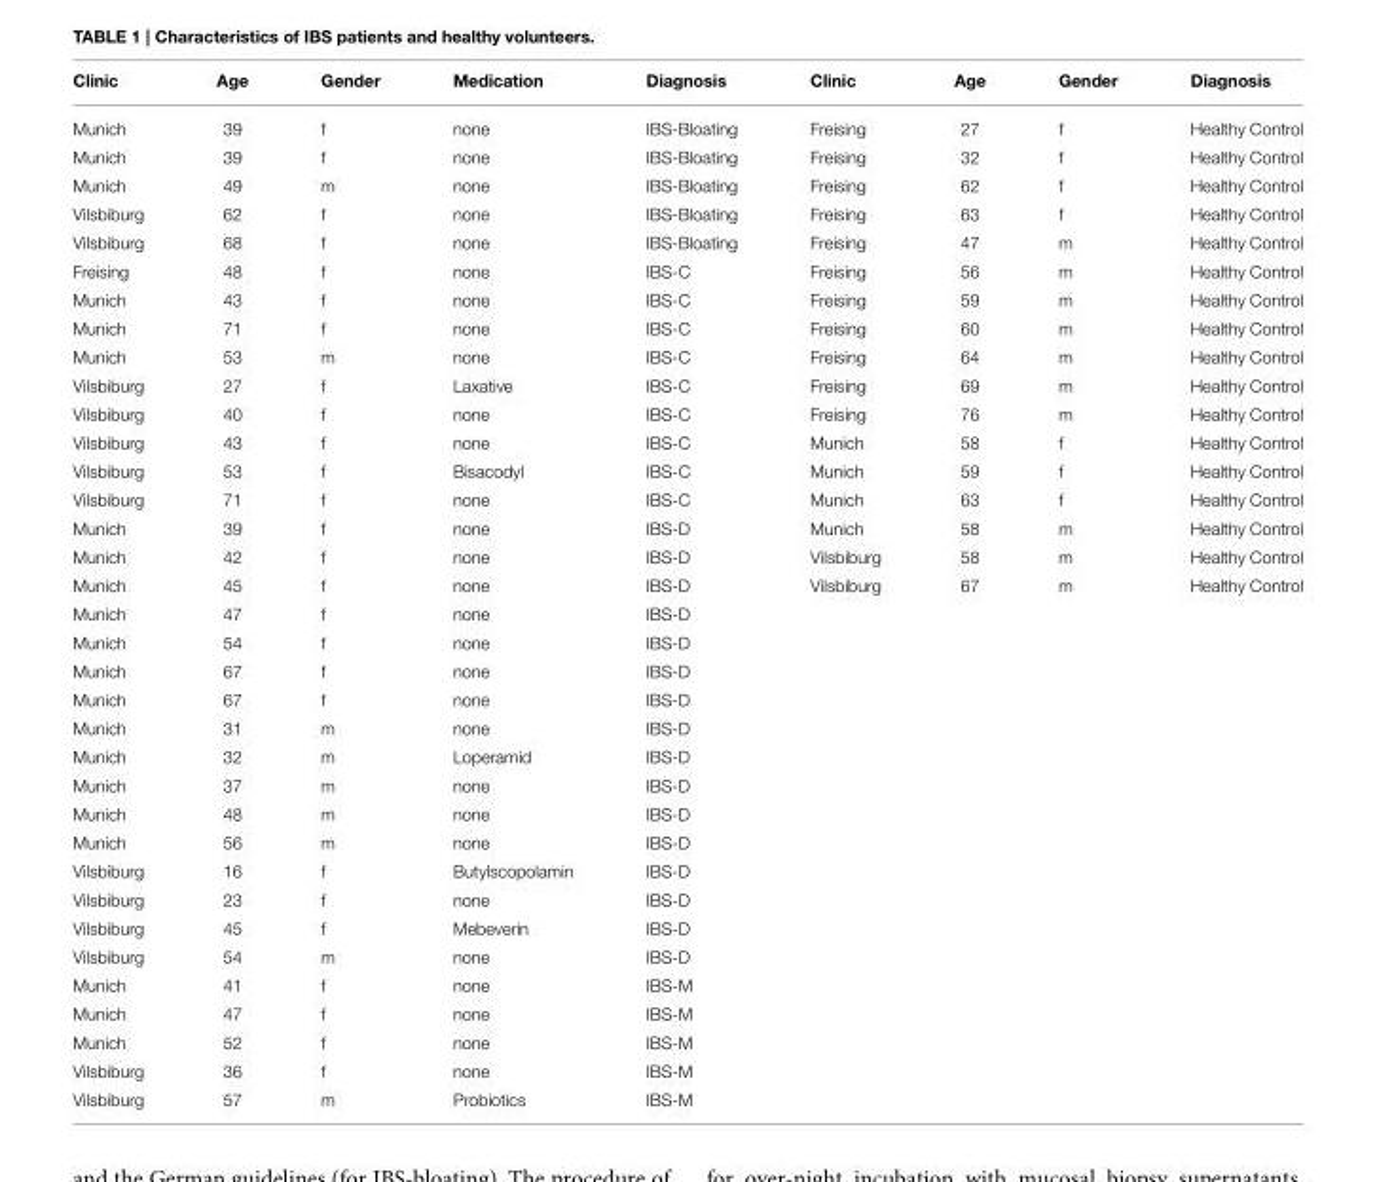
<table><thead><tr><td>Clinic</td><td>Age</td><td>Gender</td><td>Medication</td><td>Diagnosis</td><td>Clinic</td><td>Age</td><td>Gender</td><td>Diagnosis</td></tr></thead><tbody><tr><td>Munich</td><td>39</td><td>f</td><td>none</td><td>IBS-Bloating</td><td>Freising</td><td>27</td><td>f</td><td>Healthy Control</td></tr><tr><td>Munich</td><td>39</td><td>f</td><td>none</td><td>IBS-Bloating</td><td>Freising</td><td>32</td><td>f</td><td>Healthy Control</td></tr><tr><td>Munich</td><td>49</td><td>m</td><td>none</td><td>IBS-Bloating</td><td>Freising</td><td>62</td><td>f</td><td>Healthy Control</td></tr><tr><td>Vilsbiburg</td><td>62</td><td>f</td><td>none</td><td>IBS-Bloating</td><td>Freising</td><td>63</td><td>f</td><td>Healthy Control</td></tr><tr><td>Vilsbiburg</td><td>68</td><td>f</td><td>none</td><td>IBS-Bloating</td><td>Freising</td><td>47</td><td>m</td><td>Healthy Control</td></tr><tr><td>Freising</td><td>48</td><td>f</td><td>none</td><td>IBS-C</td><td>Freising</td><td>56</td><td>m</td><td>Healthy Control</td></tr><tr><td>Munich</td><td>43</td><td>f</td><td>none</td><td>IBS-C</td><td>Freising</td><td>59</td><td>m</td><td>Healthy Control</td></tr><tr><td>Munich</td><td>71</td><td>f</td><td>none</td><td>IBS-C</td><td>Freising</td><td>60</td><td>m</td><td>Healthy Control</td></tr><tr><td>Munich</td><td>53</td><td>m</td><td>none</td><td>IBS-C</td><td>Freising</td><td>64</td><td>m</td><td>Healthy Control</td></tr><tr><td>Vilsbiburg</td><td>27</td><td>f</td><td>Laxative</td><td>IBS-C</td><td>Freising</td><td>69</td><td>m</td><td>Healthy Control</td></tr><tr><td>Vilsbiburg</td><td>40</td><td>f</td><td>none</td><td>IBS-C</td><td>Freising</td><td>76</td><td>m</td><td>Healthy Control</td></tr><tr><td>Vilsbiburg</td><td>43</td><td>f</td><td>none</td><td>IBS-C</td><td>Munich</td><td>58</td><td>f</td><td>Healthy Control</td></tr><tr><td>Vilsbiburg</td><td>53</td><td>f</td><td>Bisacodyl</td><td>IBS-C</td><td>Munich</td><td>59</td><td>f</td><td>Healthy Control</td></tr><tr><td>Vilsbiburg</td><td>71</td><td>f</td><td>none</td><td>IBS-C</td><td>Munich</td><td>63</td><td>f</td><td>Healthy Control</td></tr><tr><td>Munich</td><td>39</td><td>f</td><td>none</td><td>IBS-D</td><td>Munich</td><td>58</td><td>m</td><td>Healthy Control</td></tr><tr><td>Munich</td><td>42</td><td>f</td><td>none</td><td>IBS-D</td><td>Vilsbiburg</td><td>58</td><td>m</td><td>Healthy Control</td></tr><tr><td>Munich</td><td>45</td><td>f</td><td>none</td><td>IBS-D</td><td>Vilsbiburg</td><td>67</td><td>m</td><td>Healthy Control</td></tr><tr><td>Munich</td><td>47</td><td>f</td><td>none</td><td>IBS-D</td><td></td><td></td><td></td><td></td></tr><tr><td>Munich</td><td>54</td><td>f</td><td>none</td><td>IBS-D</td><td></td><td></td><td></td><td></td></tr><tr><td>Munich</td><td>67</td><td>f</td><td>none</td><td>IBS-D</td><td></td><td></td><td></td><td></td></tr><tr><td>Munich</td><td>67</td><td>f</td><td>none</td><td>IBS-D</td><td></td><td></td><td></td><td></td></tr><tr><td>Munich</td><td>31</td><td>m</td><td>none</td><td>IBS-D</td><td></td><td></td><td></td><td></td></tr><tr><td>Munich</td><td>32</td><td>m</td><td>Loperamid</td><td>IBS-D</td><td></td><td></td><td></td><td></td></tr><tr><td>Munich</td><td>37</td><td>m</td><td>none</td><td>IBS-D</td><td></td><td></td><td></td><td></td></tr><tr><td>Munich</td><td>48</td><td>m</td><td>none</td><td>IBS-D</td><td></td><td></td><td></td><td></td></tr><tr><td>Munich</td><td>56</td><td>m</td><td>none</td><td>IBS-D</td><td></td><td></td><td></td><td></td></tr><tr><td>Vilsbiburg</td><td>16</td><td>f</td><td>Butylscopolamin</td><td>IBS-D</td><td></td><td></td><td></td><td></td></tr><tr><td>Vilsbiburg</td><td>23</td><td>f</td><td>none</td><td>IBS-D</td><td></td><td></td><td></td><td></td></tr><tr><td>Vilsbiburg</td><td>45</td><td>f</td><td>Mebeverin</td><td>IBS-D</td><td></td><td></td><td></td><td></td></tr><tr><td>Vilsbiburg</td><td>54</td><td>m</td><td>none</td><td>IBS-D</td><td></td><td></td><td></td><td></td></tr><tr><td>Munich</td><td>41</td><td>f</td><td>none</td><td>IBS-M</td><td></td><td></td><td></td><td></td></tr><tr><td>Munich</td><td>47</td><td>f</td><td>none</td><td>IBS-M</td><td></td><td></td><td></td><td></td></tr><tr><td>Munich</td><td>52</td><td>f</td><td>none</td><td>IBS-M</td><td></td><td></td><td></td><td></td></tr><tr><td>Vilsbiburg</td><td>36</td><td>f</td><td>none</td><td>IBS-M</td><td></td><td></td><td></td><td></td></tr><tr><td>Vilsbiburg</td><td>57</td><td>m</td><td>Probiotics</td><td>IBS-M</td><td></td><td></td><td></td><td></td></tr></tbody></table>